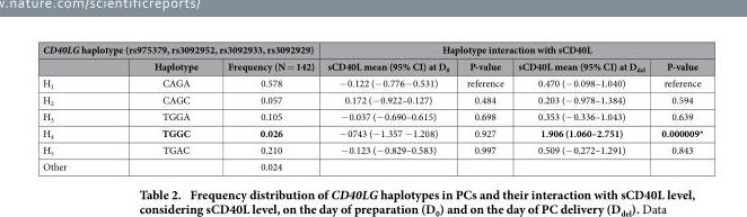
<table><thead><tr><td colspan="3">CD40LG haplotype (rs975379, rs3092952, rs3092933, rs3092929)</td><td colspan="4">Haplotype interaction with sCD40L</td></tr><tr><td></td><td>Haplotype</td><td>Frequency (N = 142)</td><td>sCD40L mean (95% CI) at D<sub>0</sub></td><td>P-value</td><td>sCD40L mean (95% CI) at D<sub>del</sub></td><td>P-value</td></tr></thead><tbody><tr><td>H<sub>1</sub></td><td>CAGA</td><td>0.578</td><td>− 0.122 (− 0.776− 0.531)</td><td>reference</td><td>0.470 (− 0.098–1.040)</td><td>reference</td></tr><tr><td>H<sub>2</sub></td><td>CAGC</td><td>0.057</td><td>0.172 (− 0.922–0.127)</td><td>0.484</td><td>0.203 (− 0.978–1.384)</td><td>0.594</td></tr><tr><td>H<sub>3</sub></td><td>TGGA</td><td>0.105</td><td>− 0.037 (− 0.690–0.615)</td><td>0.698</td><td>0.353 (− 0.336–1.043)</td><td>0.639</td></tr><tr><td>H<sub>4</sub></td><td>TGGC</td><td>0.026</td><td>− 0743 (− 1.357 − 1.208)</td><td>0.927</td><td>1.906 (1.060–2.751)</td><td>0.000009*</td></tr><tr><td>H<sub>5</sub></td><td>TGAC</td><td>0.210</td><td>− 0.123 (− 0.829–0.583)</td><td>0.997</td><td>0.509 (− 0,272–1.291)</td><td>0.843</td></tr><tr><td>Other</td><td></td><td>0.024</td><td></td><td></td><td></td><td></td></tr></tbody></table>